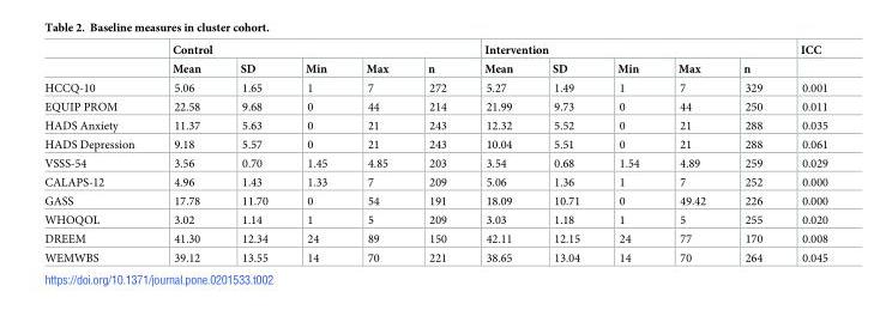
<table><thead><tr><td rowspan="2"></td><td colspan="5">Control</td><td colspan="5">Intervention</td><td rowspan="2">ICC</td></tr><tr><td>Mean</td><td>SD</td><td>Min</td><td>Max</td><td>n</td><td>Mean</td><td>SD</td><td>Min</td><td>Max</td><td>n</td></tr></thead><tbody><tr><td>HCCQ-10</td><td>5.06</td><td>1.65</td><td>1</td><td>7</td><td>272</td><td>5.27</td><td>1.49</td><td>1</td><td>7</td><td>329</td><td>0.001</td></tr><tr><td>EQUIP PROM</td><td>22.58</td><td>9.68</td><td>0</td><td>44</td><td>214</td><td>21.99</td><td>9.73</td><td>0</td><td>44</td><td>250</td><td>0.011</td></tr><tr><td>HADS Anxiety</td><td>11.37</td><td>5.63</td><td>0</td><td>21</td><td>243</td><td>12.32</td><td>5.52</td><td>0</td><td>21</td><td>288</td><td>0.035</td></tr><tr><td>HADS Depression</td><td>9.18</td><td>5.57</td><td>0</td><td>21</td><td>243</td><td>10.04</td><td>5.51</td><td>0</td><td>21</td><td>288</td><td>0.061</td></tr><tr><td>VSSS-54</td><td>3.56</td><td>0.70</td><td>1.45</td><td>4.85</td><td>203</td><td>3.54</td><td>0.68</td><td>1.54</td><td>4.89</td><td>259</td><td>0.029</td></tr><tr><td>CALAPS-12</td><td>4.96</td><td>1.43</td><td>1.33</td><td>7</td><td>209</td><td>5.06</td><td>1.36</td><td>1</td><td>7</td><td>252</td><td>0.000</td></tr><tr><td>GASS</td><td>17.78</td><td>11.70</td><td>0</td><td>54</td><td>191</td><td>18.09</td><td>10.71</td><td>0</td><td>49.42</td><td>226</td><td>0.000</td></tr><tr><td>WHOQOL</td><td>3.02</td><td>1.14</td><td>1</td><td>5</td><td>209</td><td>3.03</td><td>1.18</td><td>1</td><td>5</td><td>255</td><td>0.020</td></tr><tr><td>DREEM</td><td>41.30</td><td>12.34</td><td>24</td><td>89</td><td>150</td><td>42.11</td><td>12.15</td><td>24</td><td>77</td><td>170</td><td>0.008</td></tr><tr><td>WEMWBS</td><td>39.12</td><td>13.55</td><td>14</td><td>70</td><td>221</td><td>38.65</td><td>13.04</td><td>14</td><td>70</td><td>264</td><td>0.045</td></tr></tbody></table>